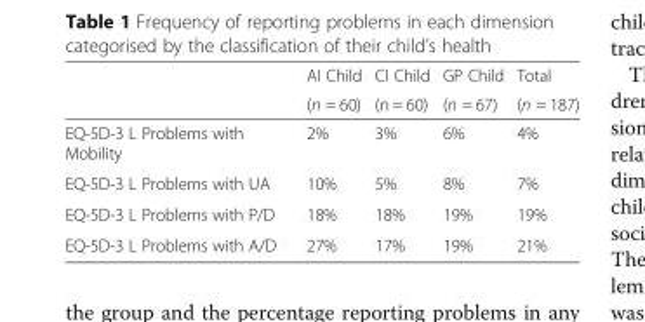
<table><thead><tr><td rowspan="2"></td><td rowspan="2">AI Child (n = 60)</td><td rowspan="2">CI Child (n = 60)</td><td rowspan="2">GP Child (n = 67)</td><td rowspan="2">Total (n = 187)</td></tr><tr></tr></thead><tbody><tr><td>EQ-5D-3 L Problems with Mobility</td><td>2%</td><td>3%</td><td>6%</td><td>4%</td></tr><tr><td>EQ-5D-3 L Problems with UA</td><td>10%</td><td>5%</td><td>8%</td><td>7%</td></tr><tr><td>EQ-5D-3 L Problems with P/D</td><td>18%</td><td>18%</td><td>19%</td><td>19%</td></tr><tr><td>EQ-5D-3 L Problems with A/D</td><td>27%</td><td>17%</td><td>19%</td><td>21%</td></tr></tbody></table>